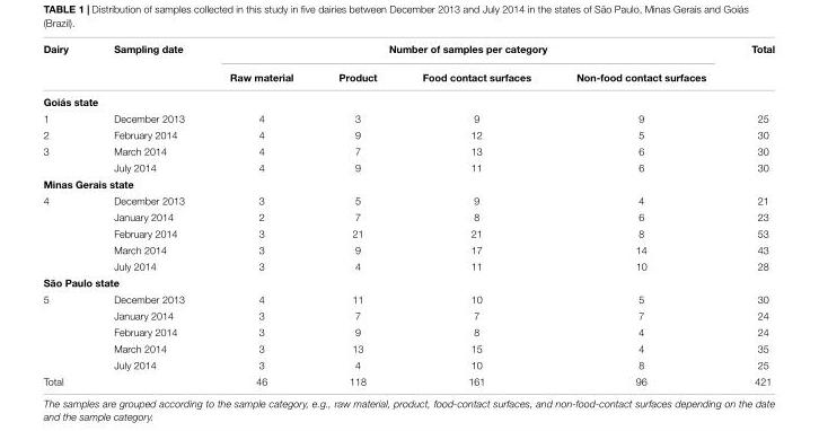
<table><thead><tr><td rowspan="2">Dairy</td><td rowspan="2">Sampling date</td><td colspan="4">Number of samples per category</td><td rowspan="2">Total</td></tr><tr><td>Raw material</td><td>Product</td><td>Food contact surfaces</td><td>Non-food contact surfaces</td></tr></thead><tbody><tr><td colspan="7">Goiás state</td></tr><tr><td>1</td><td>December 2013</td><td>4</td><td>3</td><td>9</td><td>9</td><td>25</td></tr><tr><td>2</td><td>February 2014</td><td>4</td><td>9</td><td>12</td><td>5</td><td>30</td></tr><tr><td rowspan="2">3</td><td>March 2014</td><td>4</td><td>7</td><td>13</td><td>6</td><td>30</td></tr><tr><td>July 2014</td><td>4</td><td>9</td><td>11</td><td>6</td><td>30</td></tr><tr><td colspan="7">Minas Gerais state</td></tr><tr><td rowspan="5">4</td><td>December 2013</td><td>3</td><td>5</td><td>9</td><td>4</td><td>21</td></tr><tr><td>January 2014</td><td>2</td><td>7</td><td>8</td><td>6</td><td>23</td></tr><tr><td>February 2014</td><td>3</td><td>21</td><td>21</td><td>8</td><td>53</td></tr><tr><td>March 2014</td><td>3</td><td>9</td><td>17</td><td>14</td><td>43</td></tr><tr><td>July 2014</td><td>3</td><td>4</td><td>11</td><td>10</td><td>28</td></tr><tr><td colspan="7">São Paulo state</td></tr><tr><td rowspan="5">5</td><td>December 2013</td><td>4</td><td>11</td><td>10</td><td>5</td><td>30</td></tr><tr><td>January 2014</td><td>3</td><td>7</td><td>7</td><td>7</td><td>24</td></tr><tr><td>February 2014</td><td>3</td><td>9</td><td>8</td><td>4</td><td>24</td></tr><tr><td>March 2014</td><td>3</td><td>13</td><td>15</td><td>4</td><td>35</td></tr><tr><td>July 2014</td><td>3</td><td>4</td><td>10</td><td>8</td><td>25</td></tr><tr><td>Total</td><td></td><td>46</td><td>118</td><td>161</td><td>96</td><td>421</td></tr></tbody></table>